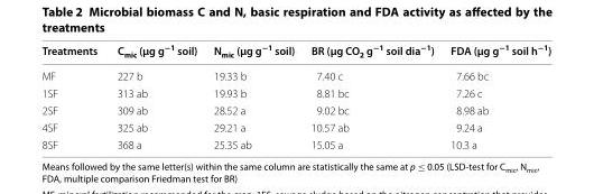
<table><thead><tr><td>Treatments</td><td>C<sub>mic</sub> (μg g<sup>−1</sup> soil)</td><td>N<sub>mic</sub> (μg g<sup>−1</sup> soil)</td><td>BR (μg CO<sub>2</sub> g<sup>−1</sup> soil dia<sup>−1</sup>)</td><td>FDA (μg g<sup>−1</sup> soil h<sup>−1</sup>)</td></tr></thead><tbody><tr><td>MF</td><td>227 b</td><td>19.33 b</td><td>7.40 c</td><td>7.66 bc</td></tr><tr><td>1SF</td><td>313 ab</td><td>19.93 b</td><td>8.81 bc</td><td>7.26 c</td></tr><tr><td>2SF</td><td>309 ab</td><td>28.52 a</td><td>9.02 bc</td><td>8.98 ab</td></tr><tr><td>4SF</td><td>325 ab</td><td>29.21 a</td><td>10.57 ab</td><td>9.24 a</td></tr><tr><td>8SF</td><td>368 a</td><td>25.35 ab</td><td>15.05 a</td><td>10.3 a</td></tr></tbody></table>